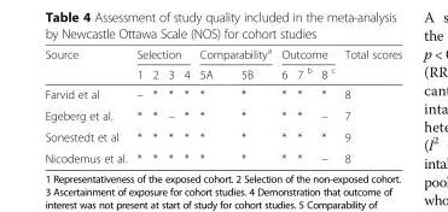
<table><thead><tr><td rowspan="2">Source</td><td colspan="4">Selection</td><td colspan="2">Comparability<sup>a</sup></td><td colspan="3">Outcome</td><td rowspan="2">Total scores</td></tr><tr><td>1</td><td>2</td><td>3</td><td>4</td><td>5A</td><td>5B</td><td>6</td><td>7 <sup>b</sup></td><td>8 <sup>c</sup></td></tr></thead><tbody><tr><td>Farvid et al</td><td>–</td><td>*</td><td>*</td><td>*</td><td>*</td><td>*</td><td>*</td><td>*</td><td>*</td><td>8</td></tr><tr><td>Egeberg et al.</td><td>*</td><td>*</td><td>–</td><td>*</td><td>*</td><td>*</td><td>*</td><td>*</td><td>–</td><td>7</td></tr><tr><td>Sonestedt et al</td><td>*</td><td>*</td><td>*</td><td>*</td><td>*</td><td>*</td><td>*</td><td>*</td><td>*</td><td>9</td></tr><tr><td>Nicodemus et al.</td><td>*</td><td>*</td><td>*</td><td>*</td><td>*</td><td>*</td><td>*</td><td>*</td><td>–</td><td>8</td></tr></tbody></table>